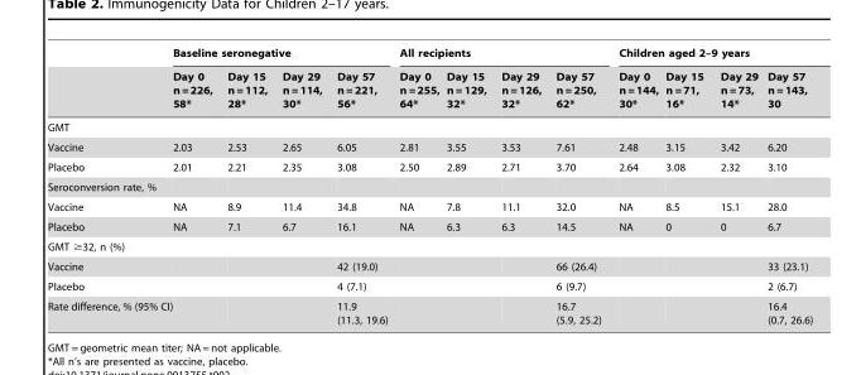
<table><thead><tr><td rowspan="2"></td><td colspan="4">Baseline seronegative</td><td colspan="4">All recipients</td><td colspan="4">Children aged 2–9 years</td></tr><tr><td>Day 0 n = 226, 58*</td><td>Day 15 n = 112, 28*</td><td>Day 29 n = 114, 30*</td><td>Day 57 n = 221, 56*</td><td>Day 0 n = 255, 64*</td><td>Day 15 n = 129, 32*</td><td>Day 29 n = 126, 32*</td><td>Day 57 n = 250, 62*</td><td>Day 0 n = 144, 30*</td><td>Day 15 n = 71, 16*</td><td>Day 29 n = 73, 14*</td><td>Day 57 n = 143, 30</td></tr></thead><tbody><tr><td colspan="13">GMT</td></tr><tr><td>Vaccine</td><td>2.03</td><td>2.53</td><td>2.65</td><td>6.05</td><td>2.81</td><td>3.55</td><td>3.53</td><td>7.61</td><td>2.48</td><td>3.15</td><td>3.42</td><td>6.20</td></tr><tr><td>Placebo</td><td>2.01</td><td>2.21</td><td>2.35</td><td>3.08</td><td>2.50</td><td>2.89</td><td>2.71</td><td>3.70</td><td>2.64</td><td>3.08</td><td>2.32</td><td>3.10</td></tr><tr><td colspan="13">Seroconversion rate, %</td></tr><tr><td>Vaccine</td><td>NA</td><td>8.9</td><td>11.4</td><td>34.8</td><td>NA</td><td>7.8</td><td>11.1</td><td>32.0</td><td>NA</td><td>8.5</td><td>15.1</td><td>28.0</td></tr><tr><td>Placebo</td><td>NA</td><td>7.1</td><td>6.7</td><td>16.1</td><td>NA</td><td>6.3</td><td>6.3</td><td>14.5</td><td>NA</td><td>0</td><td>0</td><td>6.7</td></tr><tr><td colspan="13">GMT ≥32, n (%)</td></tr><tr><td>Vaccine</td><td></td><td></td><td></td><td>42 (19.0)</td><td></td><td></td><td></td><td>66 (26.4)</td><td></td><td></td><td></td><td>33 (23.1)</td></tr><tr><td>Placebo</td><td></td><td></td><td></td><td>4 (7.1)</td><td></td><td></td><td></td><td>6 (9.7)</td><td></td><td></td><td></td><td>2 (6.7)</td></tr><tr><td>Rate difference, % (95% CI)</td><td></td><td></td><td></td><td>11.9 (11.3, 19.6)</td><td></td><td></td><td></td><td>16.7 (5.9, 25.2)</td><td></td><td></td><td></td><td>16.4 (0.7, 26.6)</td></tr></tbody></table>